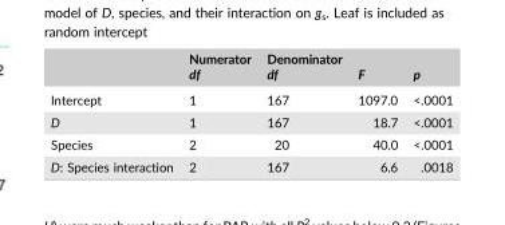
<table><thead><tr><td></td><td>Numerator df</td><td>Denominator df</td><td>F</td><td>p</td></tr></thead><tbody><tr><td>Intercept</td><td>1</td><td>167</td><td>1097.0</td><td>&lt;.0001</td></tr><tr><td>D</td><td>1</td><td>167</td><td>18.7</td><td>&lt;.0001</td></tr><tr><td>Species</td><td>2</td><td>20</td><td>40.0</td><td>&lt;.0001</td></tr><tr><td>D: Species interaction</td><td>2</td><td>167</td><td>6.6</td><td>.0018</td></tr></tbody></table>